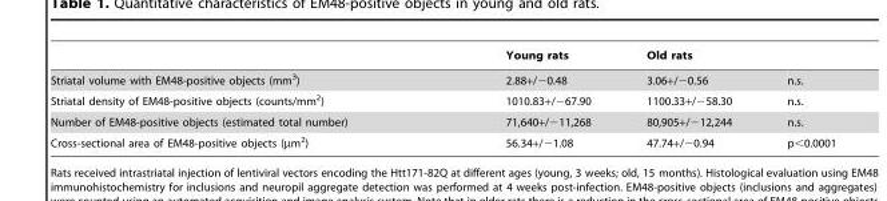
<table><thead><tr><td></td><td>Young rats</td><td>Old rats</td><td></td></tr></thead><tbody><tr><td>Striatal volume with EM48-positive objects (mm<sup>3</sup>)</td><td>2.88+/−0.48</td><td>3.06+/−0.56</td><td>n.s.</td></tr><tr><td>Striatal density of EM48-positive objects (counts/mm<sup>2</sup>)</td><td>1010.83+/−67.90</td><td>1100.33+/−58.30</td><td>n.s.</td></tr><tr><td>Number of EM48-positive objects (estimated total number)</td><td>71,640+/−11,268</td><td>80,905+/−12,244</td><td>n.s.</td></tr><tr><td>Cross-sectional area of EM48-positive objects (µm<sup>2</sup>)</td><td>56.34+/−1.08</td><td>47.74+/−0.94</td><td>p&lt;0.0001</td></tr></tbody></table>